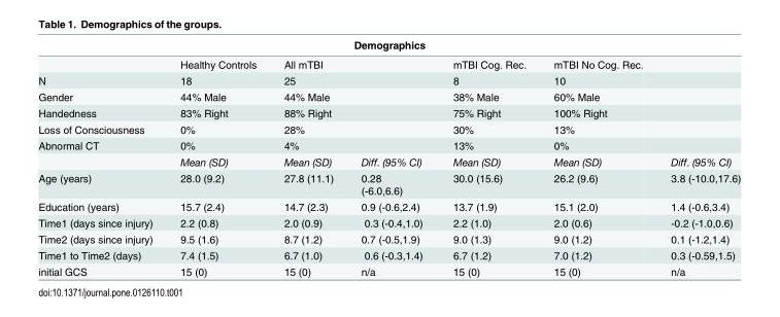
<table><thead><tr><td colspan="7">Demographics</td></tr><tr><td></td><td>Healthy Controls</td><td>All mTBI</td><td></td><td>mTBI Cog. Rec.</td><td>mTBI No Cog. Rec.</td><td></td></tr></thead><tbody><tr><td>N</td><td>18</td><td>25</td><td></td><td>8</td><td>10</td><td></td></tr><tr><td>Gender</td><td>44% Male</td><td>44% Male</td><td></td><td>38% Male</td><td>60% Male</td><td></td></tr><tr><td>Handedness</td><td>83% Right</td><td>88% Right</td><td></td><td>75% Right</td><td>100% Right</td><td></td></tr><tr><td>Loss of Consciousness</td><td>0%</td><td>28%</td><td></td><td>30%</td><td>13%</td><td></td></tr><tr><td rowspan="2">Abnormal CT</td><td>0%</td><td>4%</td><td></td><td>13%</td><td>0%</td><td></td></tr><tr><td>Mean (SD)</td><td>Mean (SD)</td><td>Diff. (95% CI)</td><td>Mean (SD)</td><td>Mean (SD)</td><td>Diff. (95% CI)</td></tr><tr><td>Age (years)</td><td>28.0 (9.2)</td><td>27.8 (11.1)</td><td>0.28 (-6.0,6.6)</td><td>30.0 (15.6)</td><td>26.2 (9.6)</td><td>3.8 (-10.0,17.6)</td></tr><tr><td>Education (years)</td><td>15.7 (2.4)</td><td>14.7 (2.3)</td><td>0.9 (-0.6,2.4)</td><td>13.7 (1.9)</td><td>15.1 (2.0)</td><td>1.4 (-0.6,3.4)</td></tr><tr><td>Time1 (days since injury)</td><td>2.2 (0.8)</td><td>2.0 (0.9)</td><td>0.3 (-0.4,1.0)</td><td>2.2 (1.0)</td><td>2.0 (0.6)</td><td>-0.2 (-1.0,0.6)</td></tr><tr><td>Time2 (days since injury)</td><td>9.5 (1.6)</td><td>8.7 (1.2)</td><td>0.7 (-0.5,1.9)</td><td>9.0 (1.3)</td><td>9.0 (1.2)</td><td>0.1 (-1.2,1.4)</td></tr><tr><td>Time1 to Time2 (days)</td><td>7.4 (1.5)</td><td>6.7 (1.0)</td><td>0.6 (-0.3,1.4)</td><td>6.7 (1.2)</td><td>7.0 (1.2)</td><td>0.3 (-0.59,1.5)</td></tr><tr><td>initial GCS</td><td>15 (0)</td><td>15 (0)</td><td>n/a</td><td>15 (0)</td><td>15 (0)</td><td>n/a</td></tr></tbody></table>